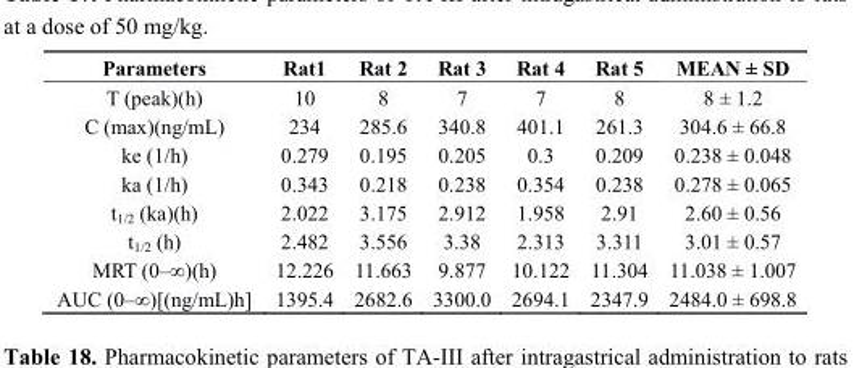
<table><thead><tr><td>Parameters</td><td>Rat1</td><td>Rat 2</td><td>Rat 3</td><td>Rat 4</td><td>Rat 5</td><td>MEAN ± SD</td></tr></thead><tbody><tr><td>T (peak)(h)</td><td>10</td><td>8</td><td>7</td><td>7</td><td>8</td><td>8 ± 1.2</td></tr><tr><td>C (max)(ng/mL)</td><td>234</td><td>285.6</td><td>340.8</td><td>401.1</td><td>261.3</td><td>304.6 ± 66.8</td></tr><tr><td>ke (1/h)</td><td>0.279</td><td>0.195</td><td>0.205</td><td>0.3</td><td>0.209</td><td>0.238 ± 0.048</td></tr><tr><td>ka (1/h)</td><td>0.343</td><td>0.218</td><td>0.238</td><td>0.354</td><td>0.238</td><td>0.278 ± 0.065</td></tr><tr><td>t<sub>1/2</sub> (ka)(h)</td><td>2.022</td><td>3.175</td><td>2.912</td><td>1.958</td><td>2.91</td><td>2.60 ± 0.56</td></tr><tr><td>t<sub>1/2</sub> (h)</td><td>2.482</td><td>3.556</td><td>3.38</td><td>2.313</td><td>3.311</td><td>3.01 ± 0.57</td></tr><tr><td>MRT (0–∞)(h)</td><td>12.226</td><td>11.663</td><td>9.877</td><td>10.122</td><td>11.304</td><td>11.038 ± 1.007</td></tr><tr><td>AUC (0–∞)[(ng/mL)h]</td><td>1395.4</td><td>2682.6</td><td>3300.0</td><td>2694.1</td><td>2347.9</td><td>2484.0 ± 698.8</td></tr></tbody></table>